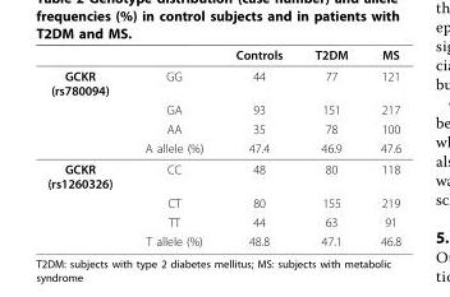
<table><thead><tr><td></td><td></td><td>Controls</td><td>T2DM</td><td>MS</td></tr></thead><tbody><tr><td rowspan="4">GCKR (rs780094)</td><td>GG</td><td>44</td><td>77</td><td>121</td></tr><tr><td>GA</td><td>93</td><td>151</td><td>217</td></tr><tr><td>AA</td><td>35</td><td>78</td><td>100</td></tr><tr><td>A allele (%)</td><td>47.4</td><td>46.9</td><td>47.6</td></tr><tr><td rowspan="4">GCKR (rs1260326)</td><td>CC</td><td>48</td><td>80</td><td>118</td></tr><tr><td>CT</td><td>80</td><td>155</td><td>219</td></tr><tr><td>TT</td><td>44</td><td>63</td><td>91</td></tr><tr><td>T allele (%)</td><td>48.8</td><td>47.1</td><td>46.8</td></tr></tbody></table>